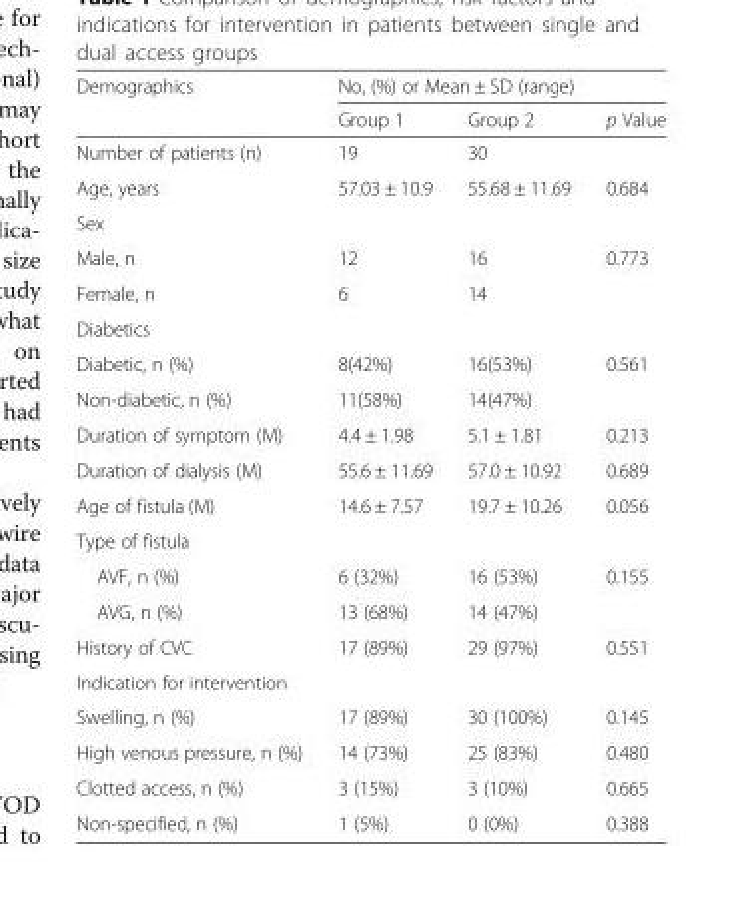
<table><thead><tr><td rowspan="2">Demographics</td><td colspan="3">No, (%) or Mean ± SD (range)</td></tr><tr><td>Group 1</td><td>Group 2</td><td>p Value</td></tr></thead><tbody><tr><td>Number of patients (n)</td><td>19</td><td>30</td><td></td></tr><tr><td>Age, years</td><td>57.03 ± 10.9</td><td>55.68 ± 11.69</td><td>0.684</td></tr><tr><td colspan="4">Sex</td></tr><tr><td>Male, n</td><td>12</td><td>16</td><td rowspan="2">0.773</td></tr><tr><td>Female, n</td><td>6</td><td>14</td></tr><tr><td colspan="4">Diabetics</td></tr><tr><td>Diabetic, n (%)</td><td>8(42%)</td><td>16(53%)</td><td rowspan="2">0.561</td></tr><tr><td>Non-diabetic, n (%)</td><td>11(58%)</td><td>14(47%)</td></tr><tr><td>Duration of symptom (M)</td><td>4.4 ± 1.98</td><td>5.1 ± 1.81</td><td>0.213</td></tr><tr><td>Duration of dialysis (M)</td><td>55.6 ± 11.69</td><td>57.0 ± 10.92</td><td>0.689</td></tr><tr><td>Age of fistula (M)</td><td>14.6 ± 7.57</td><td>19.7 ± 10.26</td><td>0.056</td></tr><tr><td colspan="4">Type of fistula</td></tr><tr><td>AVF, n (%)</td><td>6 (32%)</td><td>16 (53%)</td><td>0.155</td></tr><tr><td>AVG, n (%)</td><td>13 (68%)</td><td>14 (47%)</td><td></td></tr><tr><td>History of CVC</td><td>17 (89%)</td><td>29 (97%)</td><td>0.551</td></tr><tr><td colspan="4">Indication for intervention</td></tr><tr><td>Swelling, n (%)</td><td>17 (89%)</td><td>30 (100%)</td><td>0.145</td></tr><tr><td>High venous pressure, n (%)</td><td>14 (73%)</td><td>25 (83%)</td><td>0.480</td></tr><tr><td>Clotted access, n (%)</td><td>3 (15%)</td><td>3 (10%)</td><td>0.665</td></tr><tr><td>Non-specified, n (%)</td><td>1 (5%)</td><td>0 (0%)</td><td>0.388</td></tr></tbody></table>